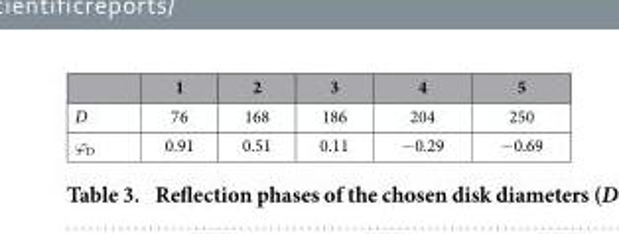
<table><thead><tr><td></td><td>1</td><td>2</td><td>3</td><td>4</td><td>5</td></tr></thead><tbody><tr><td>D</td><td>76</td><td>168</td><td>186</td><td>204</td><td>250</td></tr><tr><td>ϕ<sub>D</sub></td><td>0.91</td><td>0.51</td><td>0.11</td><td>− 0.29</td><td>− 0.69</td></tr></tbody></table>